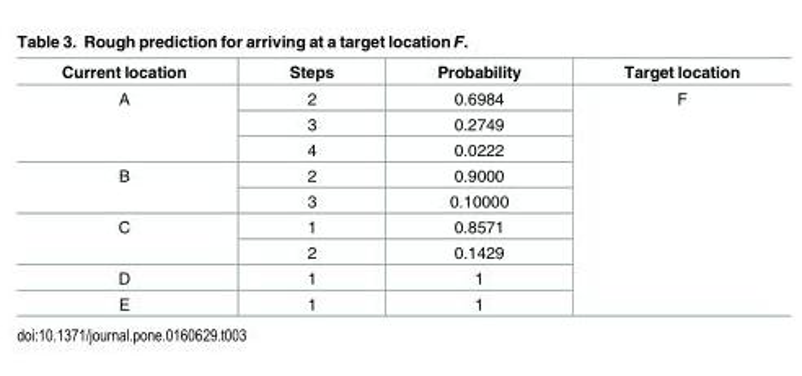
<table><thead><tr><td>Current location</td><td>Steps</td><td>Probability</td><td>Target location</td></tr></thead><tbody><tr><td rowspan="3">A</td><td>2</td><td>0.6984</td><td rowspan="9">F</td></tr><tr><td>3</td><td>0.2749</td></tr><tr><td>4</td><td>0.0222</td></tr><tr><td rowspan="2">B</td><td>2</td><td>0.9000</td></tr><tr><td>3</td><td>0.10000</td></tr><tr><td rowspan="2">C</td><td>1</td><td>0.8571</td></tr><tr><td>2</td><td>0.1429</td></tr><tr><td>D</td><td>1</td><td>1</td></tr><tr><td>E</td><td>1</td><td>1</td></tr></tbody></table>